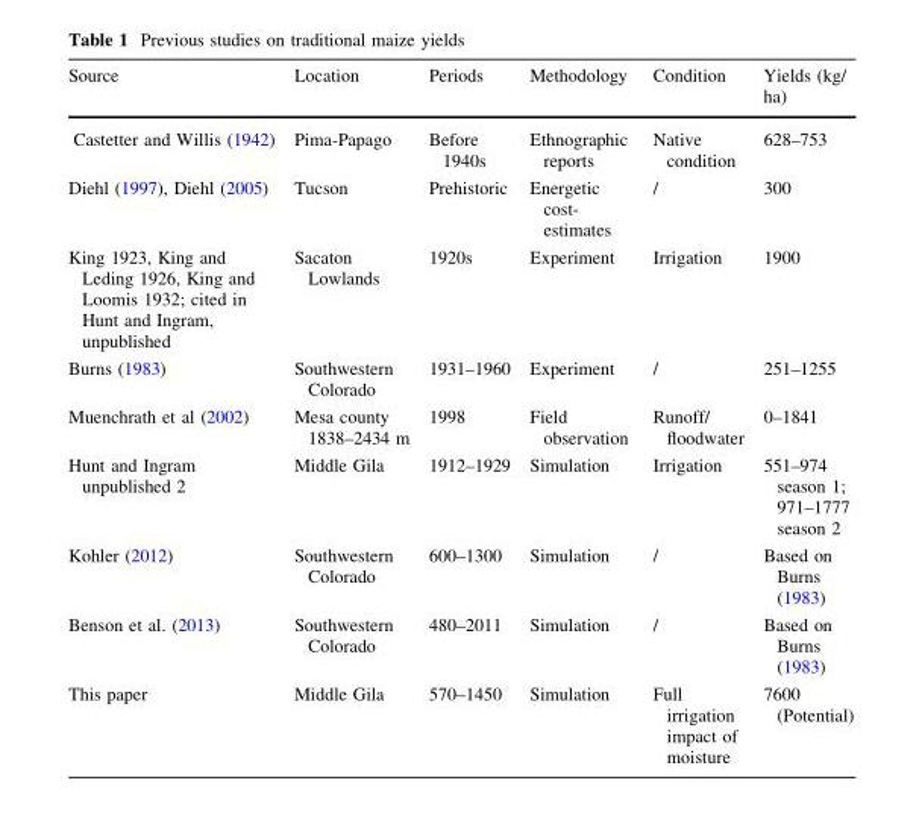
<table><thead><tr><td>Source</td><td>Location</td><td>Periods</td><td>Methodology</td><td>Condition</td><td>Yields (kg/ ha)</td></tr></thead><tbody><tr><td>Castetter and Willis (1942)</td><td>Pima-Papago</td><td>Before 1940s</td><td>Ethnographic reports</td><td>Native condition</td><td>628–753</td></tr><tr><td>Diehl (1997), Diehl (2005)</td><td>Tucson</td><td>Prehistoric</td><td>Energetic cost- estimates</td><td>/</td><td>300</td></tr><tr><td>King 1923, King and Leding 1926, King and Loomis 1932; cited in Hunt and Ingram, unpublished</td><td>Sacaton Lowlands</td><td>1920s</td><td>Experiment</td><td>Irrigation</td><td>1900</td></tr><tr><td>Burns (1983)</td><td>Southwestern Colorado</td><td>1931–1960</td><td>Experiment</td><td>/</td><td>251–1255</td></tr><tr><td>Muenchrath et al (2002)</td><td>Mesa county 1838–2434 m</td><td>1998</td><td>Field observation</td><td>Runoff/ floodwater</td><td>0–1841</td></tr><tr><td>Hunt and Ingram unpublished 2</td><td>Middle Gila</td><td>1912–1929</td><td>Simulation</td><td>Irrigation</td><td>551–974 season 1; 971–1777 season 2</td></tr><tr><td>Kohler (2012)</td><td>Southwestern Colorado</td><td>600–1300</td><td>Simulation</td><td>/</td><td>Based on Burns (1983)</td></tr><tr><td>Benson et al. (2013)</td><td>Southwestern Colorado</td><td>480–2011</td><td>Simulation</td><td>/</td><td>Based on Burns (1983)</td></tr><tr><td>This paper</td><td>Middle Gila</td><td>570–1450</td><td>Simulation</td><td>Full irrigation impact of moisture</td><td>7600 (Potential)</td></tr></tbody></table>